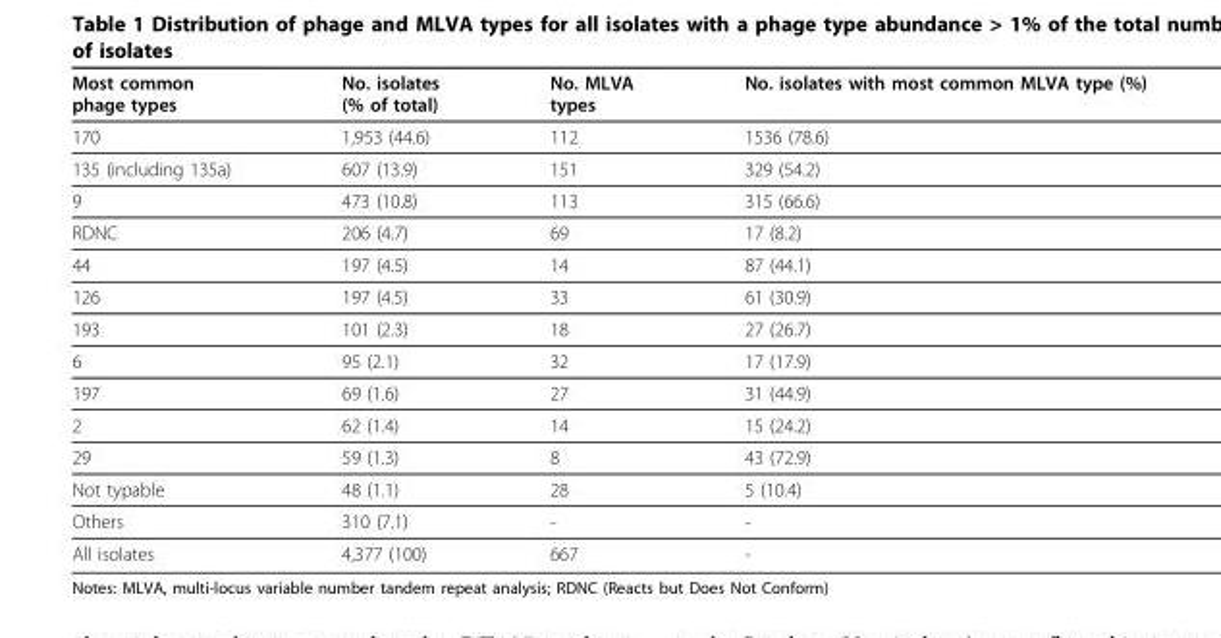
<table><thead><tr><td>Most common phage types</td><td>No. isolates (% of total)</td><td>No. MLVA types</td><td>No. isolates with most common MLVA type (%)</td></tr></thead><tbody><tr><td>170</td><td>1,953 (44.6)</td><td>112</td><td>1536 (78.6)</td></tr><tr><td>135 (including 135a)</td><td>607 (13.9)</td><td>151</td><td>329 (54.2)</td></tr><tr><td>9</td><td>473 (10.8)</td><td>113</td><td>315 (66.6)</td></tr><tr><td>RDNC</td><td>206 (4.7)</td><td>69</td><td>17 (8.2)</td></tr><tr><td>44</td><td>197 (4.5)</td><td>14</td><td>87 (44.1)</td></tr><tr><td>126</td><td>197 (4.5)</td><td>33</td><td>61 (30.9)</td></tr><tr><td>193</td><td>101 (2.3)</td><td>18</td><td>27 (26.7)</td></tr><tr><td>6</td><td>95 (2.1)</td><td>32</td><td>17 (17.9)</td></tr><tr><td>197</td><td>69 (1.6)</td><td>27</td><td>31 (44.9)</td></tr><tr><td>2</td><td>62 (1.4)</td><td>14</td><td>15 (24.2)</td></tr><tr><td>29</td><td>59 (1.3)</td><td>8</td><td>43 (72.9)</td></tr><tr><td>Not typable</td><td>48 (1.1)</td><td>28</td><td>5 (10.4)</td></tr><tr><td>Others</td><td>310 (7.1)</td><td>-</td><td>-</td></tr><tr><td>All isolates</td><td>4,377 (100)</td><td>667</td><td>-</td></tr></tbody></table>